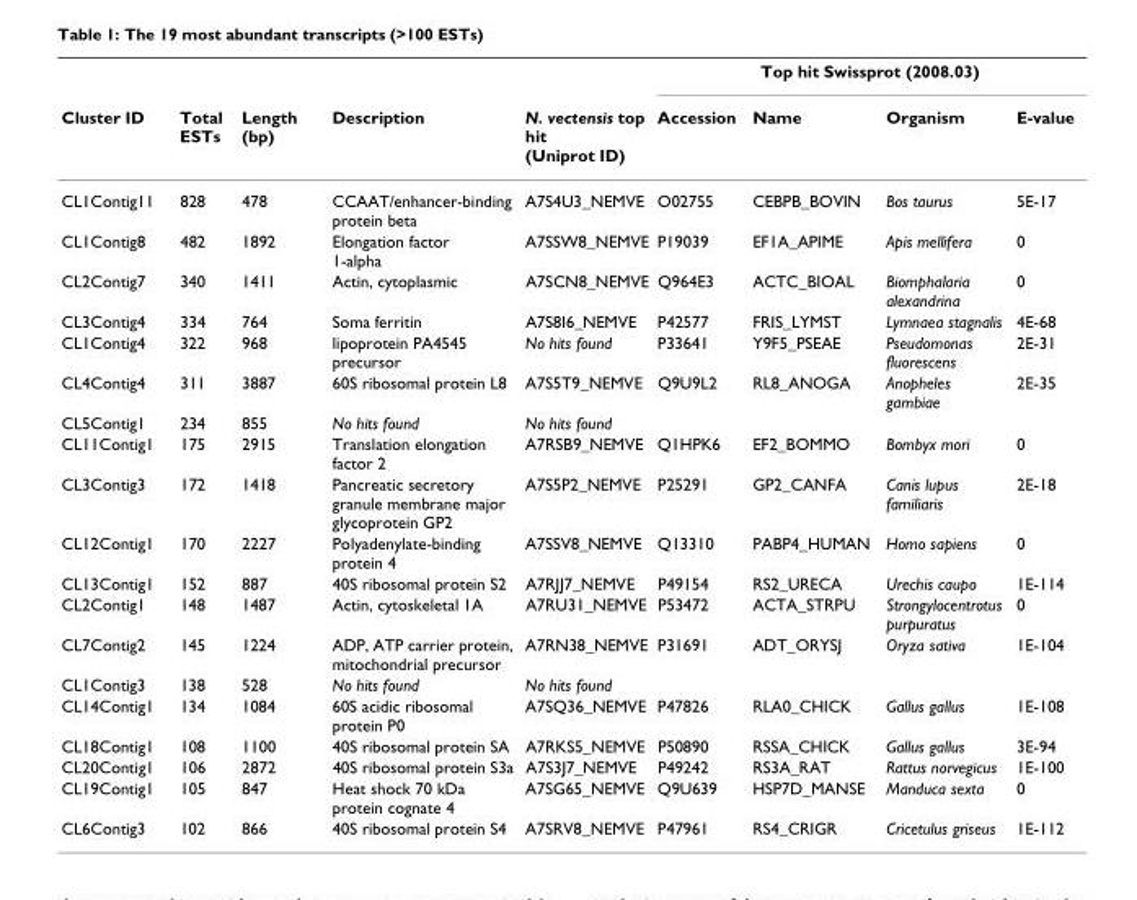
<table><thead><tr><td rowspan="2">Cluster ID</td><td rowspan="2">Total ESTs</td><td rowspan="2">Length (bp)</td><td rowspan="2">Description</td><td rowspan="2">N. vectensis top hit (Uniprot ID)</td><td colspan="4">Top hit Swissprot (2008.03)</td></tr><tr><td>Accession</td><td>Name</td><td>Organism</td><td>E-value</td></tr></thead><tbody><tr><td>CL1Contig11</td><td>828</td><td>478</td><td>CCAAT/enhancer-binding protein beta</td><td>A7S4U3_NEMVE</td><td>O02755</td><td>CEBPB_BOVIN</td><td>Bos taurus</td><td>5E-17</td></tr><tr><td>CL1Contig8</td><td>482</td><td>1892</td><td>Elongation factor 1-alpha</td><td>A7SSW8_NEMVE</td><td>P19039</td><td>EF1A_APIME</td><td>Apis mellifera</td><td>0</td></tr><tr><td>CL2Contig7</td><td>340</td><td>1411</td><td>Actin, cytoplasmic</td><td>A7SCN8_NEMVE</td><td>Q964E3</td><td>ACTC_BIOAL</td><td>Biomphalaria alexandrina</td><td>0</td></tr><tr><td>CL3Contig4</td><td>334</td><td>764</td><td>Soma ferritin</td><td>A7S8I6_NEMVE</td><td>P42577</td><td>FRIS_LYMST</td><td>Lymnaea stagnalis</td><td>4E-68</td></tr><tr><td>CL1Contig4</td><td>322</td><td>968</td><td>lipoprotein PA4545 precursor</td><td>No hits found</td><td>P33641</td><td>Y9F5_PSEAE</td><td>Pseudomonas fluorescens</td><td>2E-31</td></tr><tr><td>CL4Contig4</td><td>311</td><td>3887</td><td>60S ribosomal protein L8</td><td>A7S5T9_NEMVE</td><td>Q9U9L2</td><td>RL8_ANOGA</td><td>Anopheles gambiae</td><td>2E-35</td></tr><tr><td>CL5Contig1</td><td>234</td><td>855</td><td>No hits found</td><td>No hits found</td><td></td><td></td><td></td><td></td></tr><tr><td>CL11Contig1</td><td>175</td><td>2915</td><td>Translation elongation factor 2</td><td>A7RSB9_NEMVE</td><td>Q1HPK6</td><td>EF2_BOMMO</td><td>Bombyx mori</td><td>0</td></tr><tr><td>CL3Contig3</td><td>172</td><td>1418</td><td>Pancreatic secretory granule membrane major glycoprotein GP2</td><td>A7S5P2_NEMVE</td><td>P25291</td><td>GP2_CANFA</td><td>Canis lupus familiaris</td><td>2E-18</td></tr><tr><td>CL12Contig1</td><td>170</td><td>2227</td><td>Polyadenylate-binding protein 4</td><td>A7SSV8_NEMVE</td><td>Q13310</td><td>PABP4_HUMAN</td><td>Homo sapiens</td><td>0</td></tr><tr><td>CL13Contig1</td><td>152</td><td>887</td><td>40S ribosomal protein S2</td><td>A7RJJ7_NEMVE</td><td>P49154</td><td>RS2_URECA</td><td>Urechis caupo</td><td>1E-114</td></tr><tr><td>CL2Contig1</td><td>148</td><td>1487</td><td>Actin, cytoskeletal 1A</td><td>A7RU31_NEMVE</td><td>P53472</td><td>ACTA_STRPU</td><td>Strongylocentrotus purpuratus</td><td>0</td></tr><tr><td>CL7Contig2</td><td>145</td><td>1224</td><td>ADP, ATP carrier protein, mitochondrial precursor</td><td>A7RN38_NEMVE</td><td>P31691</td><td>ADT_ORYSJ</td><td>Oryza sativa</td><td>1E-104</td></tr><tr><td>CL1Contig3</td><td>138</td><td>528</td><td>No hits found</td><td>No hits found</td><td></td><td></td><td></td><td></td></tr><tr><td>CL14Contig1</td><td>134</td><td>1084</td><td>60S acidic ribosomal protein P0</td><td>A7SQ36_NEMVE</td><td>P47826</td><td>RLA0_CHICK</td><td>Gallus gallus</td><td>1E-108</td></tr><tr><td>CL18Contig1</td><td>108</td><td>1100</td><td>40S ribosomal protein SA</td><td>A7RKS5_NEMVE</td><td>P50890</td><td>RSSA_CHICK</td><td>Gallus gallus</td><td>3E-94</td></tr><tr><td>CL20Contig1</td><td>106</td><td>2872</td><td>40S ribosomal protein S3a</td><td>A7S3J7_NEMVE</td><td>P49242</td><td>RS3A_RAT</td><td>Rattus norvegicus</td><td>1E-100</td></tr><tr><td>CL19Contig1</td><td>105</td><td>847</td><td>Heat shock 70 kDa protein cognate 4</td><td>A7SG65_NEMVE</td><td>Q9U639</td><td>HSP7D_MANSE</td><td>Manduca sexta</td><td>0</td></tr><tr><td>CL6Contig3</td><td>102</td><td>866</td><td>40S ribosomal protein S4</td><td>A7SRV8_NEMVE</td><td>P47961</td><td>RS4_CRIGR</td><td>Cricetulus griseus</td><td>1E-112</td></tr></tbody></table>